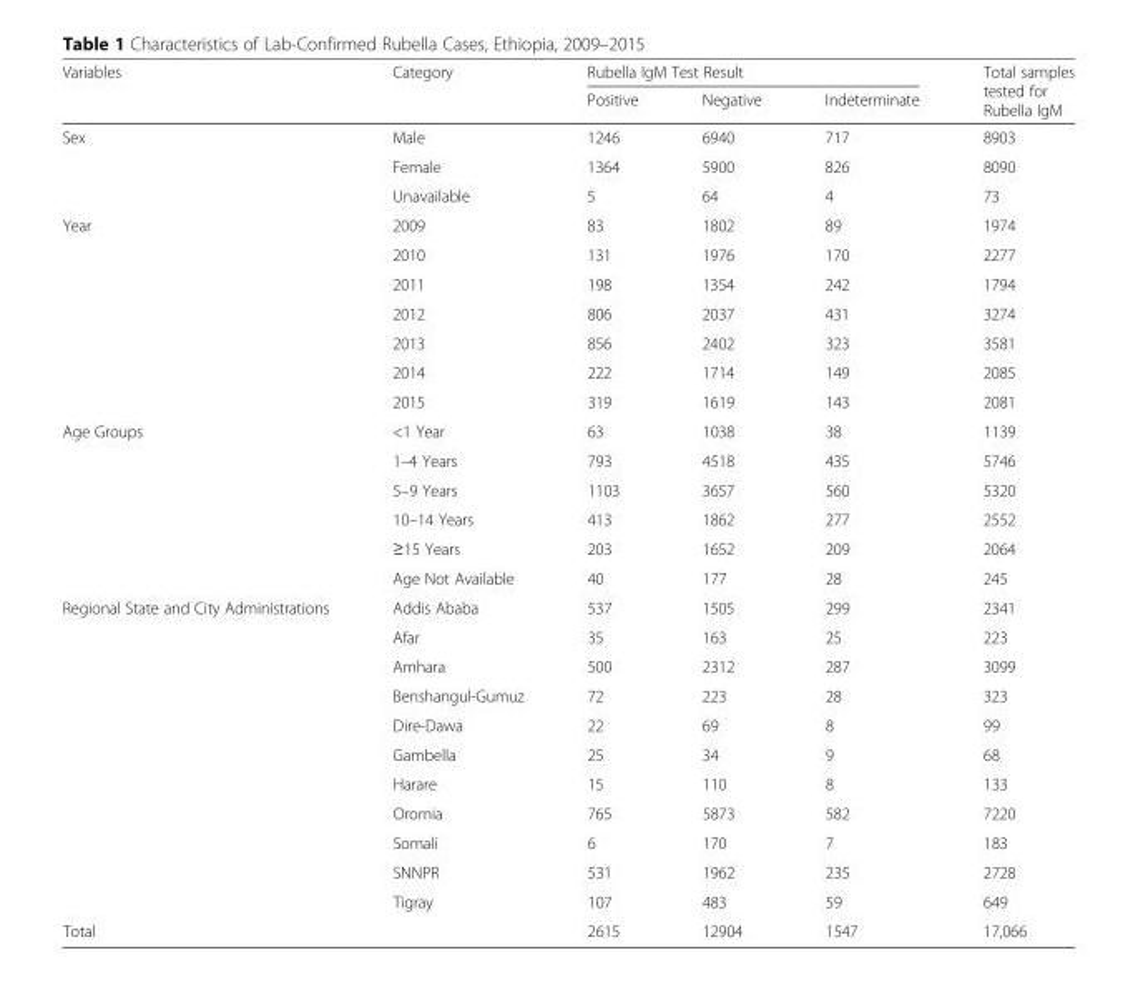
<table><thead><tr><td rowspan="2">Variables</td><td rowspan="2">Category</td><td colspan="3">Rubella IgM Test Result</td><td rowspan="2">Total samples tested for Rubella IgM</td></tr><tr><td>Positive</td><td>Negative</td><td>Indeterminate</td></tr></thead><tbody><tr><td rowspan="3">Sex</td><td>Male</td><td>1246</td><td>6940</td><td>717</td><td>8903</td></tr><tr><td>Female</td><td>1364</td><td>5900</td><td>826</td><td>8090</td></tr><tr><td>Unavailable</td><td>5</td><td>64</td><td>4</td><td>73</td></tr><tr><td rowspan="7">Year</td><td>2009</td><td>83</td><td>1802</td><td>89</td><td>1974</td></tr><tr><td>2010</td><td>131</td><td>1976</td><td>170</td><td>2277</td></tr><tr><td>2011</td><td>198</td><td>1354</td><td>242</td><td>1794</td></tr><tr><td>2012</td><td>806</td><td>2037</td><td>431</td><td>3274</td></tr><tr><td>2013</td><td>856</td><td>2402</td><td>323</td><td>3581</td></tr><tr><td>2014</td><td>222</td><td>1714</td><td>149</td><td>2085</td></tr><tr><td>2015</td><td>319</td><td>1619</td><td>143</td><td>2081</td></tr><tr><td rowspan="6">Age Groups</td><td>&lt;1 Year</td><td>63</td><td>1038</td><td>38</td><td>1139</td></tr><tr><td>1–4 Years</td><td>793</td><td>4518</td><td>435</td><td>5746</td></tr><tr><td>5–9 Years</td><td>1103</td><td>3657</td><td>560</td><td>5320</td></tr><tr><td>10–14 Years</td><td>413</td><td>1862</td><td>277</td><td>2552</td></tr><tr><td>≥15 Years</td><td>203</td><td>1652</td><td>209</td><td>2064</td></tr><tr><td>Age Not Available</td><td>40</td><td>177</td><td>28</td><td>245</td></tr><tr><td rowspan="11">Regional State and City Administrations</td><td>Addis Ababa</td><td>537</td><td>1505</td><td>299</td><td>2341</td></tr><tr><td>Afar</td><td>35</td><td>163</td><td>25</td><td>223</td></tr><tr><td>Amhara</td><td>500</td><td>2312</td><td>287</td><td>3099</td></tr><tr><td>Benshangul-Gumuz</td><td>72</td><td>223</td><td>28</td><td>323</td></tr><tr><td>Dire-Dawa</td><td>22</td><td>69</td><td>8</td><td>99</td></tr><tr><td>Gambella</td><td>25</td><td>34</td><td>9</td><td>68</td></tr><tr><td>Harare</td><td>15</td><td>110</td><td>8</td><td>133</td></tr><tr><td>Oromia</td><td>765</td><td>5873</td><td>582</td><td>7220</td></tr><tr><td>Somali</td><td>6</td><td>170</td><td>7</td><td>183</td></tr><tr><td>SNNPR</td><td>531</td><td>1962</td><td>235</td><td>2728</td></tr><tr><td>Tigray</td><td>107</td><td>483</td><td>59</td><td>649</td></tr><tr><td colspan="2">Total</td><td>2615</td><td>12904</td><td>1547</td><td>17,066</td></tr></tbody></table>